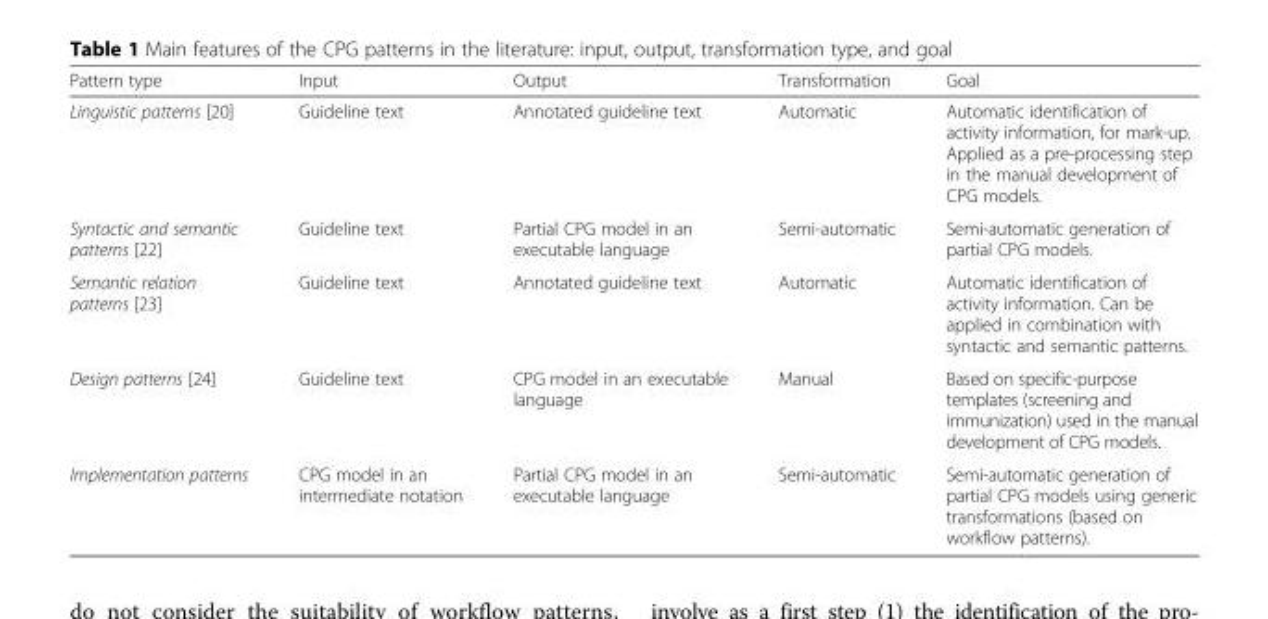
<table><thead><tr><td>Pattern type</td><td>Input</td><td>Output</td><td>Transformation</td><td>Goal</td></tr></thead><tbody><tr><td>Linguistic patterns [20]</td><td>Guideline text</td><td>Annotated guideline text</td><td>Automatic</td><td>Automatic identification of activity information, for mark-up. Applied as a pre-processing step in the manual development of CPG models.</td></tr><tr><td>Syntactic and semantic patterns [22]</td><td>Guideline text</td><td>Partial CPG model in an executable language</td><td>Semi-automatic</td><td>Semi-automatic generation of partial CPG models.</td></tr><tr><td>Semantic relation patterns [23]</td><td>Guideline text</td><td>Annotated guideline text</td><td>Automatic</td><td>Automatic identification of activity information. Can be applied in combination with syntactic and semantic patterns.</td></tr><tr><td>Design patterns [24]</td><td>Guideline text</td><td>CPG model in an executable language</td><td>Manual</td><td>Based on specific-purpose templates (screening and immunization) used in the manual development of CPG models.</td></tr><tr><td>Implementation patterns</td><td>CPG model in an intermediate notation</td><td>Partial CPG model in an executable language</td><td>Semi-automatic</td><td>Semi-automatic generation of partial CPG models using generic transformations (based on workflow patterns).</td></tr></tbody></table>